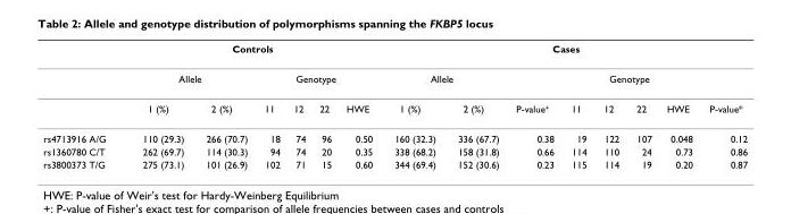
<table><thead><tr><td rowspan="3"></td><td colspan="6">Controls</td><td colspan="8">Cases</td></tr><tr><td colspan="2">Allele</td><td colspan="4">Genotype</td><td colspan="2">Allele</td><td rowspan="2">P-value<sup>+</sup></td><td colspan="4">Genotype</td><td rowspan="2">P-value*</td></tr><tr><td>1 (%)</td><td>2 (%)</td><td>11</td><td>12</td><td>22</td><td>HWE</td><td>1 (%)</td><td>2 (%)</td><td>11</td><td>12</td><td>22</td><td>HWE</td></tr></thead><tbody><tr><td>rs4713916 A/G</td><td>110 (29.3)</td><td>266 (70.7)</td><td>18</td><td>74</td><td>96</td><td>0.50</td><td>160 (32.3)</td><td>336 (67.7)</td><td>0.38</td><td>19</td><td>122</td><td>107</td><td>0.048</td><td>0.12</td></tr><tr><td>rs1360780 C/T</td><td>262 (69.7)</td><td>114 (30.3)</td><td>94</td><td>74</td><td>20</td><td>0.35</td><td>338 (68.2)</td><td>158 (31.8)</td><td>0.66</td><td>114</td><td>110</td><td>24</td><td>0.73</td><td>0.86</td></tr><tr><td>rs3800373 T/G</td><td>275 (73.1)</td><td>101 (26.9)</td><td>102</td><td>71</td><td>15</td><td>0.60</td><td>344 (69.4)</td><td>152 (30.6)</td><td>0.23</td><td>115</td><td>114</td><td>19</td><td>0.20</td><td>0.87</td></tr></tbody></table>